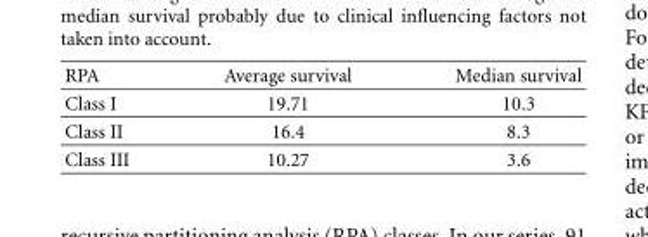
<table><thead><tr><td>RPA</td><td>Average survival</td><td>Median survival</td></tr></thead><tbody><tr><td>Class I</td><td>19.71</td><td>10.3</td></tr><tr><td>Class II</td><td>16.4</td><td>8.3</td></tr><tr><td>Class III</td><td>10.27</td><td>3.6</td></tr></tbody></table>